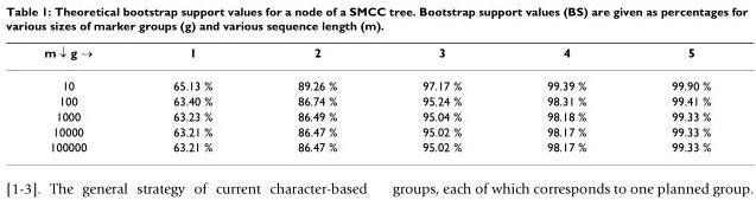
<table><thead><tr><td>m ↓ g →</td><td>1</td><td>2</td><td>3</td><td>4</td><td>5</td></tr></thead><tbody><tr><td>10</td><td>65.13 %</td><td>89.26 %</td><td>97.17 %</td><td>99.39 %</td><td>99.90 %</td></tr><tr><td>100</td><td>63.40 %</td><td>86.74 %</td><td>95.24 %</td><td>98.31 %</td><td>99.41 %</td></tr><tr><td>1000</td><td>63.23 %</td><td>86.49 %</td><td>95.04 %</td><td>98.18 %</td><td>99.33 %</td></tr><tr><td>10000</td><td>63.21 %</td><td>86.47 %</td><td>95.02 %</td><td>98.17 %</td><td>99.33 %</td></tr><tr><td>100000</td><td>63.21 %</td><td>86.47 %</td><td>95.02 %</td><td>98.17 %</td><td>99.33 %</td></tr></tbody></table>